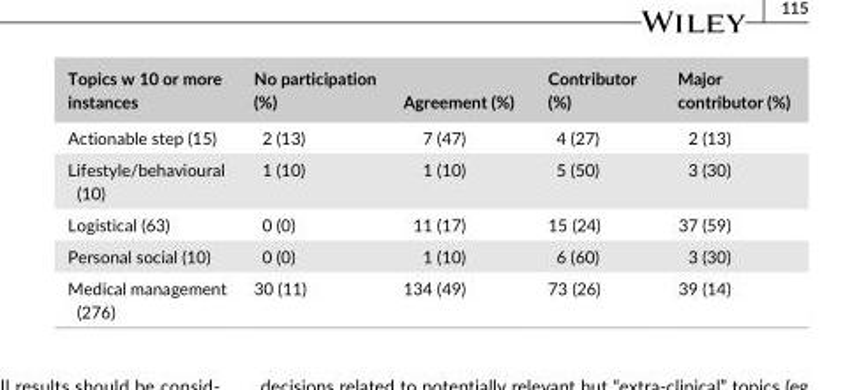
<table><thead><tr><td>Topics w 10 or more instances</td><td>No participation (%)</td><td>Agreement (%)</td><td>Contributor (%)</td><td>Major contributor (%)</td></tr></thead><tbody><tr><td>Actionable step (15)</td><td>2 (13)</td><td>7 (47)</td><td>4 (27)</td><td>2 (13)</td></tr><tr><td>Lifestyle/behavioural (10)</td><td>1 (10)</td><td>1 (10)</td><td>5 (50)</td><td>3 (30)</td></tr><tr><td>Logistical (63)</td><td>0 (0)</td><td>11 (17)</td><td>15 (24)</td><td>37 (59)</td></tr><tr><td>Personal social (10)</td><td>0 (0)</td><td>1 (10)</td><td>6 (60)</td><td>3 (30)</td></tr><tr><td>Medical management (276)</td><td>30 (11)</td><td>134 (49)</td><td>73 (26)</td><td>39 (14)</td></tr></tbody></table>